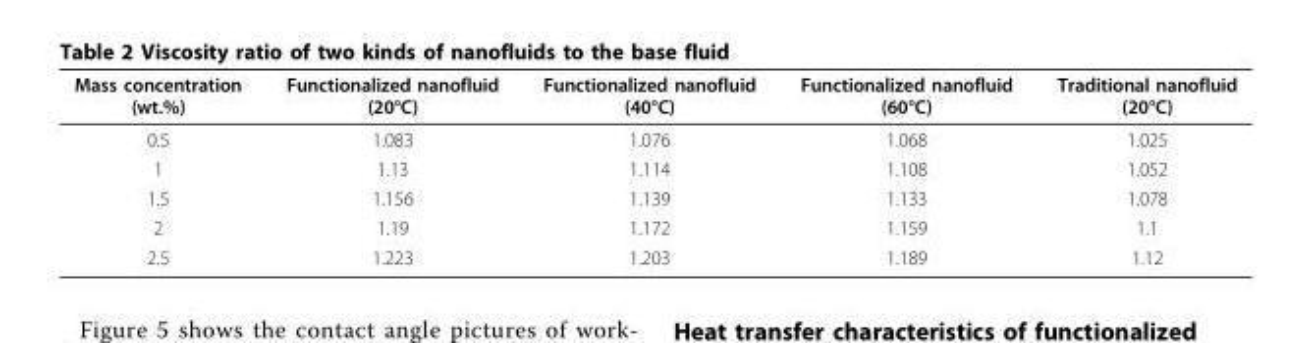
<table><thead><tr><td>Mass concentration (wt.%)</td><td>Functionalized nanofluid (20°C)</td><td>Functionalized nanofluid (40°C)</td><td>Functionalized nanofluid (60°C)</td><td>Traditional nanofluid (20°C)</td></tr></thead><tbody><tr><td>0.5</td><td>1.083</td><td>1.076</td><td>1.068</td><td>1.025</td></tr><tr><td>1</td><td>1.13</td><td>1.114</td><td>1.108</td><td>1.052</td></tr><tr><td>1.5</td><td>1.156</td><td>1.139</td><td>1.133</td><td>1.078</td></tr><tr><td>2</td><td>1.19</td><td>1.172</td><td>1.159</td><td>1.1</td></tr><tr><td>2.5</td><td>1.223</td><td>1.203</td><td>1.189</td><td>1.12</td></tr></tbody></table>